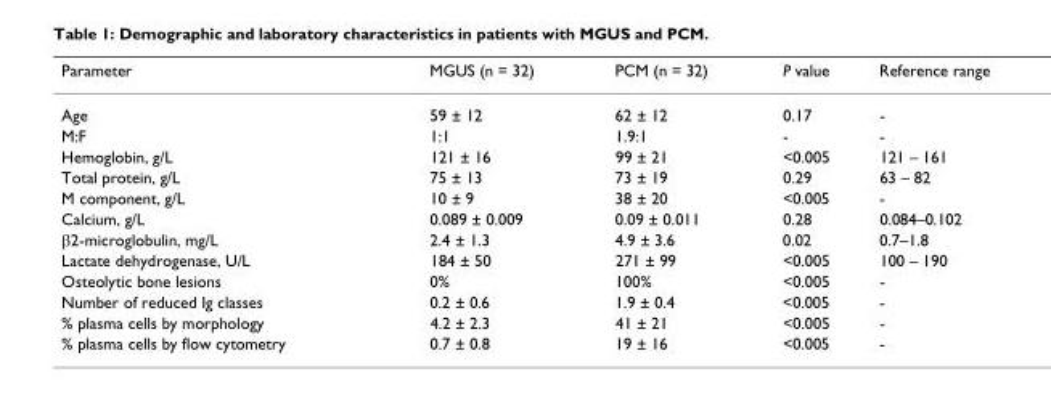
<table><thead><tr><td>Parameter</td><td>MGUS (n = 32)</td><td>PCM (n = 32)</td><td>P value</td><td>Reference range</td></tr></thead><tbody><tr><td>Age</td><td>59 ± 12</td><td>62 ± 12</td><td>0.17</td><td>-</td></tr><tr><td>M:F</td><td>1:1</td><td>1.9:1</td><td>-</td><td>-</td></tr><tr><td>Hemoglobin, g/L</td><td>121 ± 16</td><td>99 ± 21</td><td>&lt;0.005</td><td>121 – 161</td></tr><tr><td>Total protein, g/L</td><td>75 ± 13</td><td>73 ± 19</td><td>0.29</td><td>63 – 82</td></tr><tr><td>M component, g/L</td><td>10 ± 9</td><td>38 ± 20</td><td>&lt;0.005</td><td>-</td></tr><tr><td>Calcium, g/L</td><td>0.089 ± 0.009</td><td>0.09 ± 0.011</td><td>0.28</td><td>0.084–0.102</td></tr><tr><td>β2-microglobulin, mg/L</td><td>2.4 ± 1.3</td><td>4.9 ± 3.6</td><td>0.02</td><td>0.7–1.8</td></tr><tr><td>Lactate dehydrogenase, U/L</td><td>184 ± 50</td><td>271 ± 99</td><td>&lt;0.005</td><td>100 – 190</td></tr><tr><td>Osteolytic bone lesions</td><td>0%</td><td>100%</td><td>&lt;0.005</td><td>-</td></tr><tr><td>Number of reduced Ig classes</td><td>0.2 ± 0.6</td><td>1.9 ± 0.4</td><td>&lt;0.005</td><td>-</td></tr><tr><td>% plasma cells by morphology</td><td>4.2 ± 2.3</td><td>41 ± 21</td><td>&lt;0.005</td><td>-</td></tr><tr><td>% plasma cells by flow cytometry</td><td>0.7 ± 0.8</td><td>19 ± 16</td><td>&lt;0.005</td><td>-</td></tr></tbody></table>